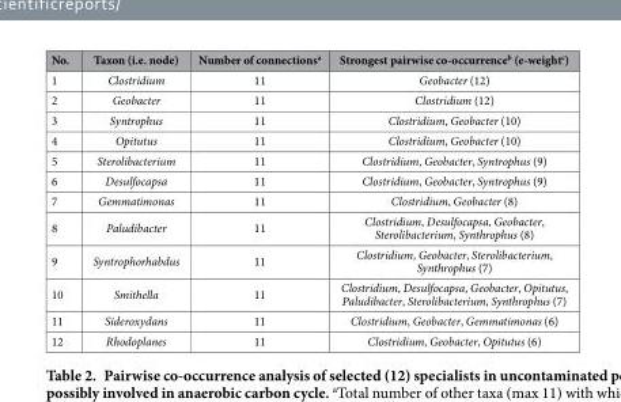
<table><thead><tr><td>No.</td><td>Taxon (i.e. node)</td><td>Number of connections<sup>a</sup></td><td>Strongest pairwise co-occurrence<sup>b</sup> (e-weight<sup>c</sup>)</td></tr></thead><tbody><tr><td>1</td><td>Clostridium</td><td>11</td><td>Geobacter (12)</td></tr><tr><td>2</td><td>Geobacter</td><td>11</td><td>Clostridium (12)</td></tr><tr><td>3</td><td>Syntrophus</td><td>11</td><td>Clostridium, Geobacter (10)</td></tr><tr><td>4</td><td>Opitutus</td><td>11</td><td>Clostridium, Geobacter (10)</td></tr><tr><td>5</td><td>Sterolibacterium</td><td>11</td><td>Clostridium, Geobacter, Syntrophus (9)</td></tr><tr><td>6</td><td>Desulfocapsa</td><td>11</td><td>Clostridium, Geobacter, Syntrophus (9)</td></tr><tr><td>7</td><td>Gemmatimonas</td><td>11</td><td>Clostridium, Geobacter (8)</td></tr><tr><td>8</td><td>Paludibacter</td><td>11</td><td>Clostridium, Desulfocapsa, Geobacter, Sterolibacterium, Synthrophus (8)</td></tr><tr><td>9</td><td>Syntrophorhabdus</td><td>11</td><td>Clostridium, Geobacter, Sterolibacterium, Synthrophus (7)</td></tr><tr><td>10</td><td>Smithella</td><td>11</td><td>Clostridium, Desulfocapsa, Geobacter, Opitutus, Paludibacter, Sterolibacterium, Synthrophus (7)</td></tr><tr><td>11</td><td>Sideroxydans</td><td>11</td><td>Clostridium, Geobacter, Gemmatimonas (6)</td></tr><tr><td>12</td><td>Rhodoplanes</td><td>11</td><td>Clostridium, Geobacter, Opitutus (6)</td></tr></tbody></table>